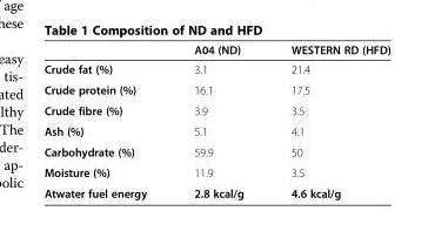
<table><thead><tr><td></td><td>A04 (ND)</td><td>WESTERN RD (HFD)</td></tr></thead><tbody><tr><td>Crude fat (%)</td><td>3.1</td><td>21.4</td></tr><tr><td>Crude protein (%)</td><td>16.1</td><td>17.5</td></tr><tr><td>Crude fibre (%)</td><td>3.9</td><td>3.5</td></tr><tr><td>Ash (%)</td><td>5.1</td><td>4.1</td></tr><tr><td>Carbohydrate (%)</td><td>59.9</td><td>50</td></tr><tr><td>Moisture (%)</td><td>11.9</td><td>3.5</td></tr><tr><td>Atwater fuel energy</td><td>2.8 kcal/g</td><td>4.6 kcal/g</td></tr></tbody></table>